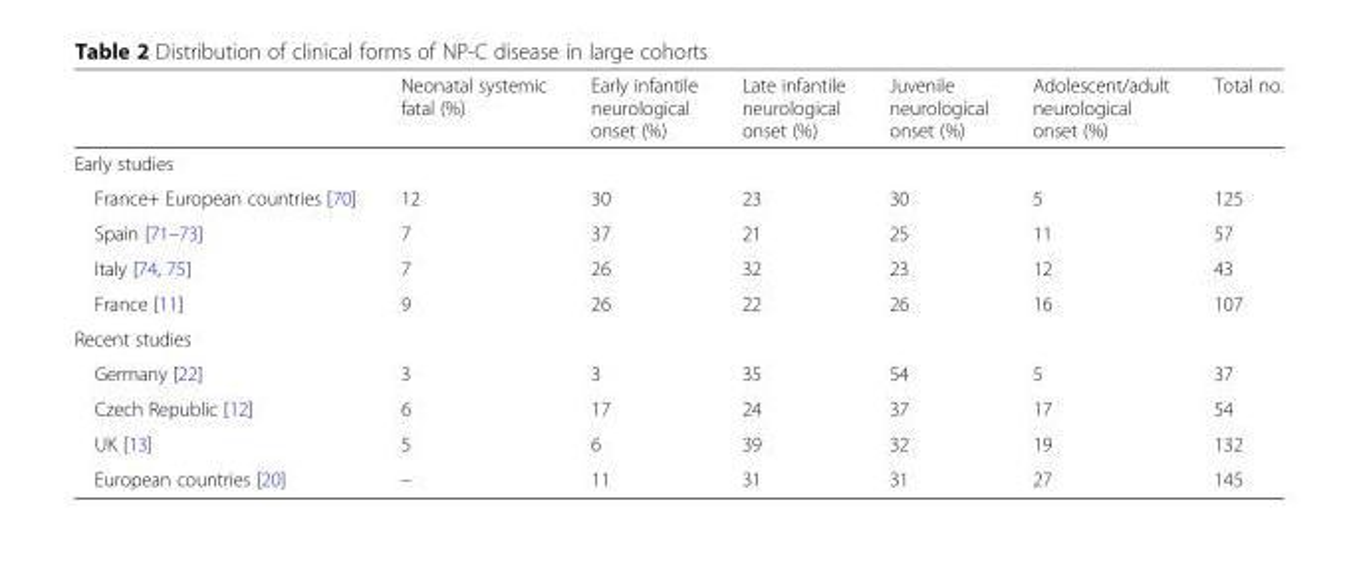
<table><thead><tr><td></td><td>Neonatal systemic fatal (%)</td><td>Early infantile neurological onset (%)</td><td>Late infantile neurological onset (%)</td><td>Juvenile neurological onset (%)</td><td>Adolescent/adult neurological onset (%)</td><td>Total no.</td></tr></thead><tbody><tr><td colspan="7">Early studies</td></tr><tr><td>France+ European countries [70]</td><td>12</td><td>30</td><td>23</td><td>30</td><td>5</td><td>125</td></tr><tr><td>Spain [71–73]</td><td>7</td><td>37</td><td>21</td><td>25</td><td>11</td><td>57</td></tr><tr><td>Italy [74, 75]</td><td>7</td><td>26</td><td>32</td><td>23</td><td>12</td><td>43</td></tr><tr><td>France [11]</td><td>9</td><td>26</td><td>22</td><td>26</td><td>16</td><td>107</td></tr><tr><td colspan="7">Recent studies</td></tr><tr><td>Germany [22]</td><td>3</td><td>3</td><td>35</td><td>54</td><td>5</td><td>37</td></tr><tr><td>Czech Republic [12]</td><td>6</td><td>17</td><td>24</td><td>37</td><td>17</td><td>54</td></tr><tr><td>UK [13]</td><td>5</td><td>6</td><td>39</td><td>32</td><td>19</td><td>132</td></tr><tr><td>European countries [20]</td><td>–</td><td>11</td><td>31</td><td>31</td><td>27</td><td>145</td></tr></tbody></table>